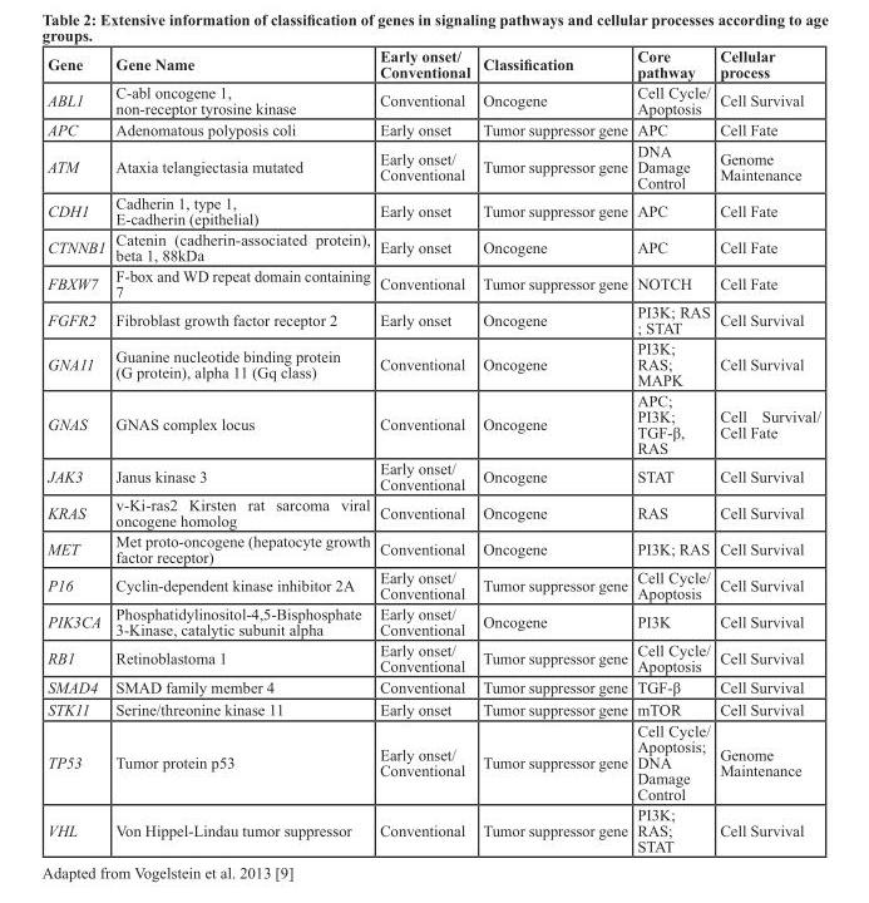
<table><thead><tr><td>Gene</td><td>Gene Name</td><td>Early onset/ Conventional</td><td>Classification</td><td>Core pathway</td><td>Cellular process</td></tr></thead><tbody><tr><td>ABL1</td><td>C-abl oncogene 1, non-receptor tyrosine kinase</td><td>Conventional</td><td>Oncogene</td><td>Cell Cycle/ Apoptosis</td><td>Cell Survival</td></tr><tr><td>APC</td><td>Adenomatous polyposis coli</td><td>Early onset</td><td>Tumor suppressor gene</td><td>APC</td><td>Cell Fate</td></tr><tr><td>ATM</td><td>Ataxia telangiectasia mutated</td><td>Early onset/ Conventional</td><td>Tumor suppressor gene</td><td>DNA Damage Control</td><td>Genome Maintenance</td></tr><tr><td>CDH1</td><td>Cadherin 1, type 1, E-cadherin (epithelial)</td><td>Early onset</td><td>Tumor suppressor gene</td><td>APC</td><td>Cell Fate</td></tr><tr><td>CTNNB1</td><td>Catenin (cadherin-associated protein), beta 1, 88kDa</td><td>Early onset</td><td>Oncogene</td><td>APC</td><td>Cell Fate</td></tr><tr><td>FBXW7</td><td>F-box and WD repeat domain containing 7</td><td>Conventional</td><td>Tumor suppressor gene</td><td>NOTCH</td><td>Cell Fate</td></tr><tr><td>FGFR2</td><td>Fibroblast growth factor receptor 2</td><td>Early onset</td><td>Oncogene</td><td>PI3K; RAS ; STAT</td><td>Cell Survival</td></tr><tr><td>GNA11</td><td>Guanine nucleotide binding protein (G protein), alpha 11 (Gq class)</td><td>Conventional</td><td>Oncogene</td><td>PI3K; RAS; MAPK</td><td>Cell Survival</td></tr><tr><td>GNAS</td><td>GNAS complex locus</td><td>Conventional</td><td>Oncogene</td><td>APC; PI3K; TGF-β, RAS</td><td>Cell Survival/ Cell Fate</td></tr><tr><td>JAK3</td><td>Janus kinase 3</td><td>Early onset/ Conventional</td><td>Oncogene</td><td>STAT</td><td>Cell Survival</td></tr><tr><td>KRAS</td><td>v-Ki-ras2 Kirsten rat sarcoma viral oncogene homolog</td><td>Conventional</td><td>Oncogene</td><td>RAS</td><td>Cell Survival</td></tr><tr><td>MET</td><td>Met proto-oncogene (hepatocyte growth factor receptor)</td><td>Conventional</td><td>Oncogene</td><td>PI3K; RAS</td><td>Cell Survival</td></tr><tr><td>P16</td><td>Cyclin-dependent kinase inhibitor 2A</td><td>Early onset/ Conventional</td><td>Tumor suppressor gene</td><td>Cell Cycle/ Apoptosis</td><td>Cell Survival</td></tr><tr><td>PIK3CA</td><td>Phosphatidylinositol-4,5-Bisphosphate 3-Kinase, catalytic subunit alpha</td><td>Early onset/ Conventional</td><td>Oncogene</td><td>PI3K</td><td>Cell Survival</td></tr><tr><td>RB1</td><td>Retinoblastoma 1</td><td>Early onset/ Conventional</td><td>Tumor suppressor gene</td><td>Cell Cycle/ Apoptosis</td><td>Cell Survival</td></tr><tr><td>SMAD4</td><td>SMAD family member 4</td><td>Conventional</td><td>Tumor suppressor gene</td><td>TGF-β</td><td>Cell Survival</td></tr><tr><td>STK11</td><td>Serine/threonine kinase 11</td><td>Early onset</td><td>Tumor suppressor gene</td><td>mTOR</td><td>Cell Survival</td></tr><tr><td>TP53</td><td>Tumor protein p53</td><td>Early onset/ Conventional</td><td>Tumor suppressor gene</td><td>Cell Cycle/ Apoptosis; DNA Damage Control</td><td>Genome Maintenance</td></tr><tr><td>VHL</td><td>Von Hippel-Lindau tumor suppressor</td><td>Conventional</td><td>Tumor suppressor gene</td><td>PI3K; RAS; STAT</td><td>Cell Survival</td></tr></tbody></table>